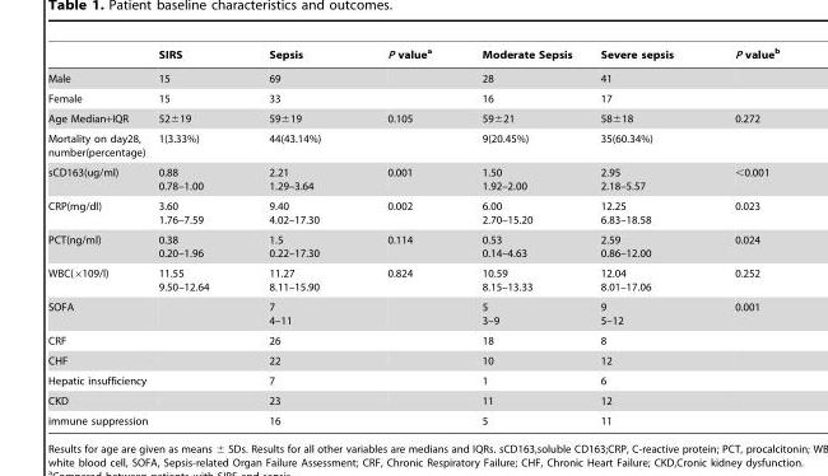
<table><thead><tr><td></td><td>SIRS</td><td>Sepsis</td><td>P value<sup>a</sup></td><td>Moderate Sepsis</td><td>Severe sepsis</td><td>P value<sup>b</sup></td></tr></thead><tbody><tr><td>Male</td><td>15</td><td>69</td><td></td><td>28</td><td>41</td><td></td></tr><tr><td>Female</td><td>15</td><td>33</td><td></td><td>16</td><td>17</td><td></td></tr><tr><td>Age Median+IQR</td><td>52±19</td><td>59±19</td><td>0.105</td><td>59±21</td><td>58±18</td><td>0.272</td></tr><tr><td>Mortality on day28, number(percentage)</td><td>1(3.33%)</td><td>44(43.14%)</td><td></td><td>9(20.45%)</td><td>35(60.34%)</td><td></td></tr><tr><td>sCD163(ug/ml)</td><td>0.88 0.78–1.00</td><td>2.21 1.29–3.64</td><td>0.001</td><td>1.50 1.92–2.00</td><td>2.95 2.18–5.57</td><td>&lt;0.001</td></tr><tr><td>CRP(mg/dl)</td><td>3.60 1.76–7.59</td><td>9.40 4.02–17.30</td><td>0.002</td><td>6.00 2.70–15.20</td><td>12.25 6.83–18.58</td><td>0.023</td></tr><tr><td>PCT(ng/ml)</td><td>0.38 0.20–1.96</td><td>1.5 0.22–17.30</td><td>0.114</td><td>0.53 0.14–4.63</td><td>2.59 0.86–12.00</td><td>0.024</td></tr><tr><td>WBC(×109/l)</td><td>11.55 9.50–12.64</td><td>11.27 8.11–15.90</td><td>0.824</td><td>10.59 8.15–13.33</td><td>12.04 8.01–17.06</td><td>0.252</td></tr><tr><td>SOFA</td><td></td><td>7 4–11</td><td></td><td>5 3–9</td><td>9 5–12</td><td>0.001</td></tr><tr><td>CRF</td><td></td><td>26</td><td></td><td>18</td><td>8</td><td></td></tr><tr><td>CHF</td><td></td><td>22</td><td></td><td>10</td><td>12</td><td></td></tr><tr><td>Hepatic insufficiency</td><td></td><td>7</td><td></td><td>1</td><td>6</td><td></td></tr><tr><td>CKD</td><td></td><td>23</td><td></td><td>11</td><td>12</td><td></td></tr><tr><td>immune suppression</td><td></td><td>16</td><td></td><td>5</td><td>11</td><td></td></tr></tbody></table>